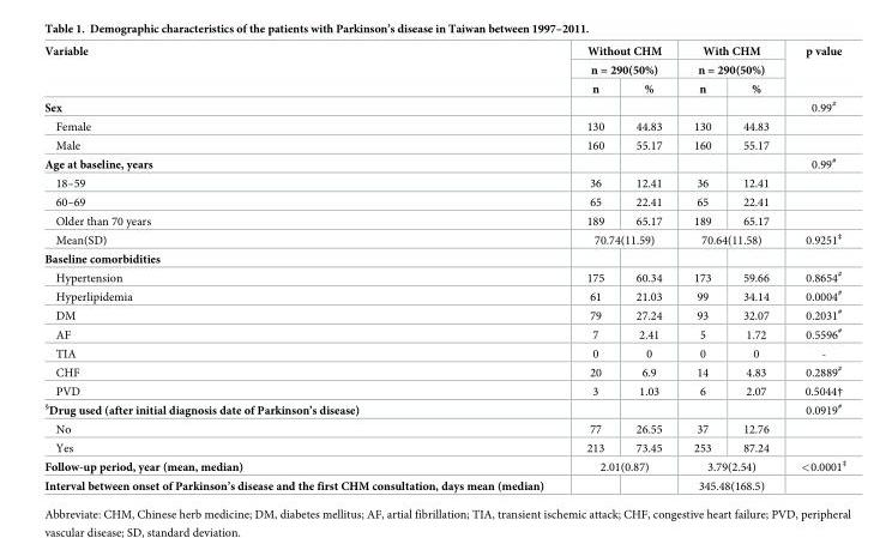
<table><thead><tr><td rowspan="3">Variable</td><td rowspan="2" colspan="2">Without CHM n = 290(50%)</td><td rowspan="2" colspan="2">With CHM n = 290(50%)</td><td rowspan="3">p value</td></tr><tr></tr><tr><td>n</td><td>%</td><td>n</td><td>%</td></tr></thead><tbody><tr><td>Sex</td><td></td><td></td><td></td><td></td><td>0.99<sup>#</sup></td></tr><tr><td>Female</td><td>130</td><td>44.83</td><td>130</td><td>44.83</td><td></td></tr><tr><td>Male</td><td>160</td><td>55.17</td><td>160</td><td>55.17</td><td></td></tr><tr><td>Age at baseline, years</td><td></td><td></td><td></td><td></td><td>0.99<sup>#</sup></td></tr><tr><td>18–59</td><td>36</td><td>12.41</td><td>36</td><td>12.41</td><td></td></tr><tr><td>60–69</td><td>65</td><td>22.41</td><td>65</td><td>22.41</td><td></td></tr><tr><td>Older than 70 years</td><td>189</td><td>65.17</td><td>189</td><td>65.17</td><td></td></tr><tr><td>Mean(SD)</td><td colspan="2">70.74(11.59)</td><td colspan="2">70.64(11.58)</td><td>0.9251<sup>‡</sup></td></tr><tr><td colspan="6">Baseline comorbidities</td></tr><tr><td>Hypertension</td><td>175</td><td>60.34</td><td>173</td><td>59.66</td><td>0.8654<sup>#</sup></td></tr><tr><td>Hyperlipidemia</td><td>61</td><td>21.03</td><td>99</td><td>34.14</td><td>0.0004<sup>#</sup></td></tr><tr><td>DM</td><td>79</td><td>27.24</td><td>93</td><td>32.07</td><td>0.2031<sup>#</sup></td></tr><tr><td>AF</td><td>7</td><td>2.41</td><td>5</td><td>1.72</td><td>0.5596<sup>#</sup></td></tr><tr><td>TIA</td><td>0</td><td>0</td><td>0</td><td>0</td><td>-</td></tr><tr><td>CHF</td><td>20</td><td>6.9</td><td>14</td><td>4.83</td><td>0.2889<sup>#</sup></td></tr><tr><td>PVD</td><td>3</td><td>1.03</td><td>6</td><td>2.07</td><td>0.5044†</td></tr><tr><td><sup>§</sup>Drug used (after initial diagnosis date of Parkinson’s disease)</td><td></td><td></td><td></td><td></td><td>0.0919<sup>#</sup></td></tr><tr><td>No</td><td>77</td><td>26.55</td><td>37</td><td>12.76</td><td></td></tr><tr><td>Yes</td><td>213</td><td>73.45</td><td>253</td><td>87.24</td><td></td></tr><tr><td>Follow-up period, year (mean, median)</td><td colspan="2">2.01(0.87)</td><td colspan="2">3.79(2.54)</td><td>&lt;0.0001<sup>‡</sup></td></tr><tr><td>Interval between onset of Parkinson’s disease and the first CHM consultation, days mean (median)</td><td></td><td></td><td colspan="2">345.48(168.5)</td><td></td></tr></tbody></table>